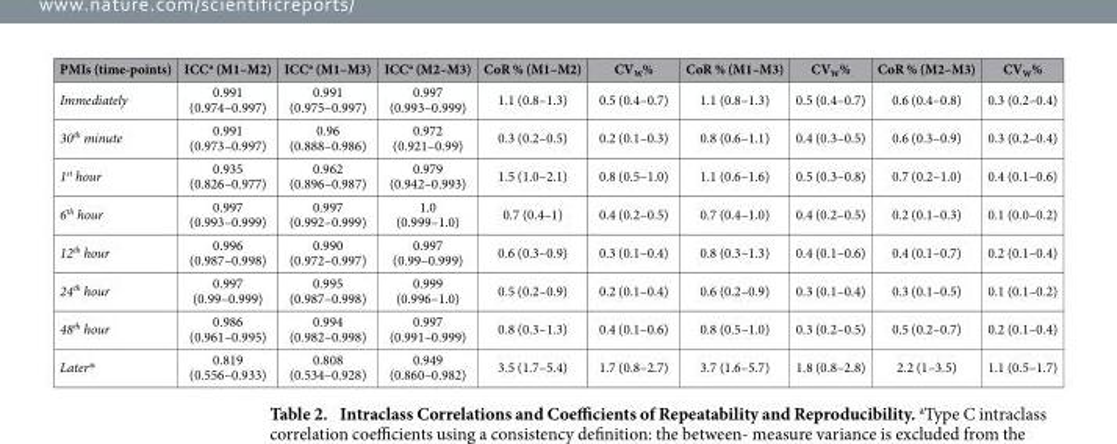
<table><thead><tr><td>PMIs (time-points)</td><td>ICC<sup>a</sup> (M1–M2)</td><td>ICC<sup>a</sup> (M1–M3)</td><td>ICC<sup>a</sup> (M2–M3)</td><td>CoR % (M1–M2)</td><td>CV<sub>W</sub>%</td><td>CoR % (M1–M3)</td><td>CV<sub>W</sub>%</td><td>CoR % (M2–M3)</td><td>CV<sub>W</sub>%</td></tr></thead><tbody><tr><td>Immediately</td><td>0.991 (0.974–0.997)</td><td>0.991 (0.975–0.997)</td><td>0.997 (0.993–0.999)</td><td>1.1 (0.8–1.3)</td><td>0.5 (0.4–0.7)</td><td>1.1 (0.8–1.3)</td><td>0.5 (0.4–0.7)</td><td>0.6 (0.4–0.8)</td><td>0.3 (0.2–0.4)</td></tr><tr><td>30<sup>th</sup> minute</td><td>0.991 (0.973–0.997)</td><td>0.96 (0.888–0.986)</td><td>0.972 (0.921–0.99)</td><td>0.3 (0.2–0.5)</td><td>0.2 (0.1–0.3)</td><td>0.8 (0.6–1.1)</td><td>0.4 (0.3–0.5)</td><td>0.6 (0.3–0.9)</td><td>0.3 (0.2–0.4)</td></tr><tr><td>1<sup>st</sup> hour</td><td>0.935 (0.826–0.977)</td><td>0.962 (0.896–0.987)</td><td>0.979 (0.942–0.993)</td><td>1.5 (1.0–2.1)</td><td>0.8 (0.5–1.0)</td><td>1.1 (0.6–1.6)</td><td>0.5 (0.3–0.8)</td><td>0.7 (0.2–1.0)</td><td>0.4 (0.1–0.6)</td></tr><tr><td>6<sup>th</sup> hour</td><td>0.997 (0.993–0.999)</td><td>0.997 (0.992–0.999)</td><td>1.0 (0.999–1.0)</td><td>0.7 (0.4–1)</td><td>0.4 (0.2–0.5)</td><td>0.7 (0.4–1.0)</td><td>0.4 (0.2–0.5)</td><td>0.2 (0.1–0.3)</td><td>0.1 (0.0–0.2)</td></tr><tr><td>12<sup>th</sup> hour</td><td>0.996 (0.987–0.998)</td><td>0.990 (0.972–0.997)</td><td>0.997 (0.99–0.999)</td><td>0.6 (0.3–0.9)</td><td>0.3 (0.1–0.4)</td><td>0.8 (0.3–1.3)</td><td>0.4 (0.1–0.6)</td><td>0.4 (0.1–0.7)</td><td>0.2 (0.1–0.4)</td></tr><tr><td>24<sup>th</sup> hour</td><td>0.997 (0.99–0.999)</td><td>0.995 (0.987–0.998)</td><td>0.999 (0.996–1.0)</td><td>0.5 (0.2–0.9)</td><td>0.2 (0.1–0.4)</td><td>0.6 (0.2–0.9)</td><td>0.3 (0.1–0.4)</td><td>0.3 (0.1–0.5)</td><td>0.1 (0.1–0.2)</td></tr><tr><td>48<sup>th</sup> hour</td><td>0.986 (0.961–0.995)</td><td>0.994 (0.982–0.998)</td><td>0.997 (0.991–0.999)</td><td>0.8 (0.3–1.3)</td><td>0.4 (0.1–0.6)</td><td>0.8 (0.5–1.0)</td><td>0.3 (0.2–0.5)</td><td>0.5 (0.2–0.7)</td><td>0.2 (0.1–0.4)</td></tr><tr><td>Later*</td><td>0.819 (0.556–0.933)</td><td>0.808 (0.534–0.928)</td><td>0.949 (0.860–0.982)</td><td>3.5 (1.7–5.4)</td><td>1.7 (0.8–2.7)</td><td>3.7 (1.6–5.7)</td><td>1.8 (0.8–2.8)</td><td>2.2 (1–3.5)</td><td>1.1 (0.5–1.7)</td></tr></tbody></table>